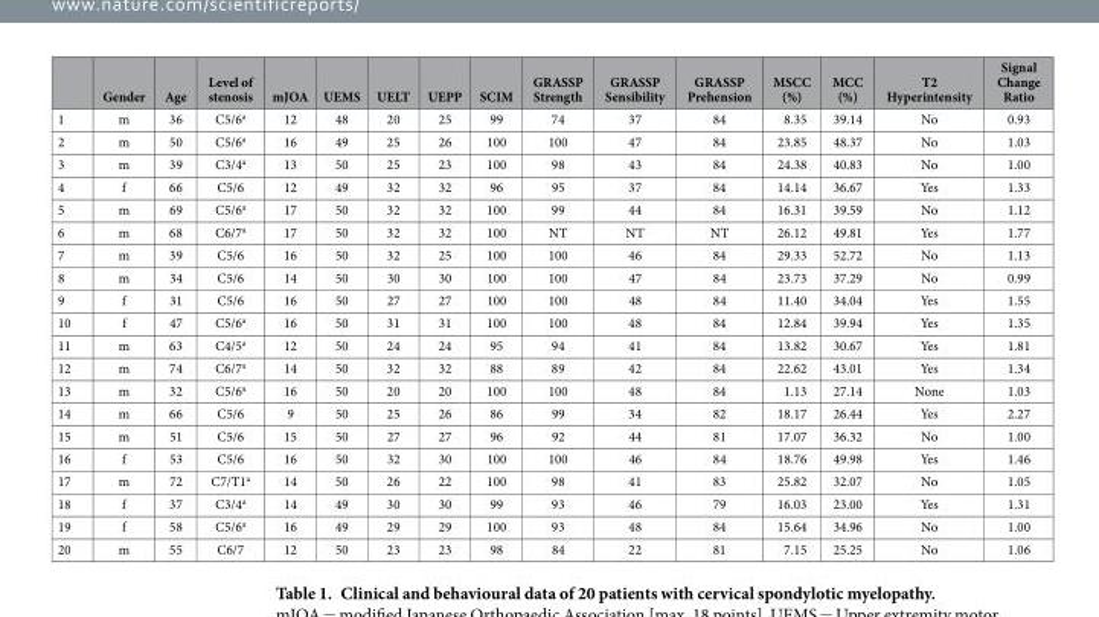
<table><thead><tr><td></td><td>Gender</td><td>Age</td><td>Level of stenosis</td><td>mJOA</td><td>UEMS</td><td>UELT</td><td>UEPP</td><td>SCIM</td><td>GRASSP Strength</td><td>GRASSP Sensibility</td><td>GRASSP Prehension</td><td>MSCC (%)</td><td>MCC (%)</td><td>T2 Hyperintensity</td><td>Signal Change Ratio</td></tr></thead><tbody><tr><td>1</td><td>m</td><td>36</td><td>C5/6<sup>a</sup></td><td>12</td><td>48</td><td>20</td><td>25</td><td>99</td><td>74</td><td>37</td><td>84</td><td>8.35</td><td>39.14</td><td>No</td><td>0.93</td></tr><tr><td>2</td><td>m</td><td>50</td><td>C5/6<sup>a</sup></td><td>16</td><td>49</td><td>25</td><td>26</td><td>100</td><td>100</td><td>47</td><td>84</td><td>23.85</td><td>48.37</td><td>No</td><td>1.03</td></tr><tr><td>3</td><td>m</td><td>39</td><td>C3/4<sup>a</sup></td><td>13</td><td>50</td><td>25</td><td>23</td><td>100</td><td>98</td><td>43</td><td>84</td><td>24.38</td><td>40.83</td><td>No</td><td>1.00</td></tr><tr><td>4</td><td>f</td><td>66</td><td>C5/6</td><td>12</td><td>49</td><td>32</td><td>32</td><td>96</td><td>95</td><td>37</td><td>84</td><td>14.14</td><td>36.67</td><td>Yes</td><td>1.33</td></tr><tr><td>5</td><td>m</td><td>69</td><td>C5/6<sup>a</sup></td><td>17</td><td>50</td><td>32</td><td>32</td><td>100</td><td>99</td><td>44</td><td>84</td><td>16.31</td><td>39.59</td><td>No</td><td>1.12</td></tr><tr><td>6</td><td>m</td><td>68</td><td>C6/7<sup>a</sup></td><td>17</td><td>50</td><td>32</td><td>32</td><td>100</td><td>NT</td><td>NT</td><td>NT</td><td>26.12</td><td>49.81</td><td>Yes</td><td>1.77</td></tr><tr><td>7</td><td>m</td><td>39</td><td>C5/6</td><td>16</td><td>50</td><td>32</td><td>25</td><td>100</td><td>100</td><td>46</td><td>84</td><td>29.33</td><td>52.72</td><td>No</td><td>1.13</td></tr><tr><td>8</td><td>m</td><td>34</td><td>C5/6</td><td>14</td><td>50</td><td>30</td><td>30</td><td>100</td><td>100</td><td>47</td><td>84</td><td>23.73</td><td>37.29</td><td>No</td><td>0.99</td></tr><tr><td>9</td><td>f</td><td>31</td><td>C5/6</td><td>16</td><td>50</td><td>27</td><td>27</td><td>100</td><td>100</td><td>48</td><td>84</td><td>11.40</td><td>34.04</td><td>Yes</td><td>1.55</td></tr><tr><td>10</td><td>f</td><td>47</td><td>C5/6<sup>a</sup></td><td>16</td><td>50</td><td>31</td><td>31</td><td>100</td><td>100</td><td>48</td><td>84</td><td>12.84</td><td>39.94</td><td>Yes</td><td>1.35</td></tr><tr><td>11</td><td>m</td><td>63</td><td>C4/5<sup>a</sup></td><td>12</td><td>50</td><td>24</td><td>24</td><td>95</td><td>94</td><td>41</td><td>84</td><td>13.82</td><td>30.67</td><td>Yes</td><td>1.81</td></tr><tr><td>12</td><td>m</td><td>74</td><td>C6/7<sup>a</sup></td><td>14</td><td>50</td><td>32</td><td>32</td><td>88</td><td>89</td><td>42</td><td>84</td><td>22.62</td><td>43.01</td><td>Yes</td><td>1.34</td></tr><tr><td>13</td><td>m</td><td>32</td><td>C5/6<sup>a</sup></td><td>16</td><td>50</td><td>20</td><td>20</td><td>100</td><td>100</td><td>48</td><td>84</td><td>1.13</td><td>27.14</td><td>None</td><td>1.03</td></tr><tr><td>14</td><td>m</td><td>66</td><td>C5/6</td><td>9</td><td>50</td><td>25</td><td>26</td><td>86</td><td>99</td><td>34</td><td>82</td><td>18.17</td><td>26.44</td><td>Yes</td><td>2.27</td></tr><tr><td>15</td><td>m</td><td>51</td><td>C5/6</td><td>15</td><td>50</td><td>27</td><td>27</td><td>96</td><td>92</td><td>44</td><td>81</td><td>17.07</td><td>36.32</td><td>No</td><td>1.00</td></tr><tr><td>16</td><td>f</td><td>53</td><td>C5/6</td><td>16</td><td>50</td><td>32</td><td>30</td><td>100</td><td>100</td><td>46</td><td>84</td><td>18.76</td><td>49.98</td><td>Yes</td><td>1.46</td></tr><tr><td>17</td><td>m</td><td>72</td><td>C7/T1<sup>a</sup></td><td>14</td><td>50</td><td>26</td><td>22</td><td>100</td><td>98</td><td>41</td><td>83</td><td>25.82</td><td>32.07</td><td>No</td><td>1.05</td></tr><tr><td>18</td><td>f</td><td>37</td><td>C3/4<sup>a</sup></td><td>14</td><td>49</td><td>30</td><td>30</td><td>99</td><td>93</td><td>46</td><td>79</td><td>16.03</td><td>23.00</td><td>Yes</td><td>1.31</td></tr><tr><td>19</td><td>f</td><td>58</td><td>C5/6<sup>a</sup></td><td>16</td><td>49</td><td>29</td><td>29</td><td>100</td><td>93</td><td>48</td><td>84</td><td>15.64</td><td>34.96</td><td>No</td><td>1.00</td></tr><tr><td>20</td><td>m</td><td>55</td><td>C6/7</td><td>12</td><td>50</td><td>23</td><td>23</td><td>98</td><td>84</td><td>22</td><td>81</td><td>7.15</td><td>25.25</td><td>No</td><td>1.06</td></tr></tbody></table>